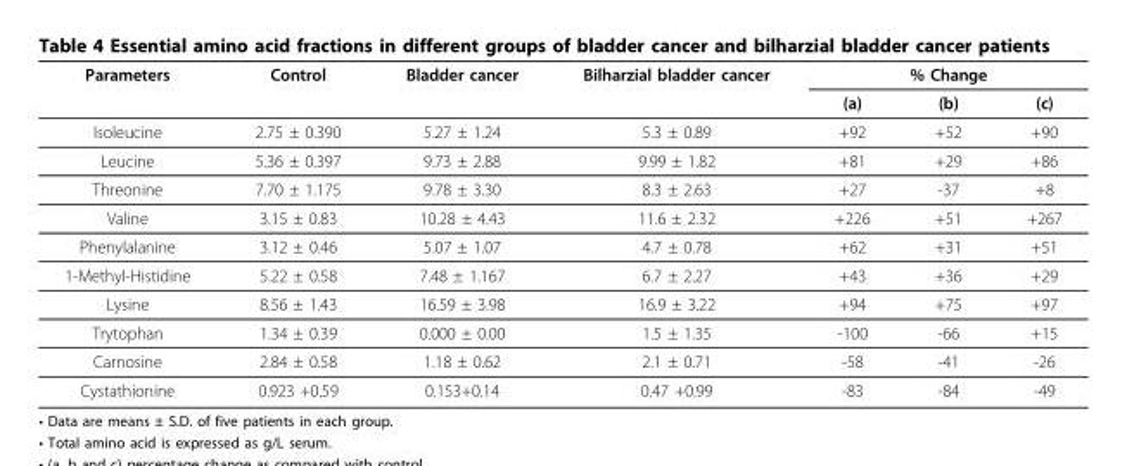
<table><thead><tr><td rowspan="2">Parameters</td><td rowspan="2">Control</td><td rowspan="2">Bladder cancer</td><td rowspan="2">Bilharzial bladder cancer</td><td colspan="3">% Change</td></tr><tr><td>(a)</td><td>(b)</td><td>(c)</td></tr></thead><tbody><tr><td>Isoleucine</td><td>2.75 ± 0.390</td><td>5.27 ± 1.24</td><td>5.3 ± 0.89</td><td>+92</td><td>+52</td><td>+90</td></tr><tr><td>Leucine</td><td>5.36 ± 0.397</td><td>9.73 ± 2.88</td><td>9.99 ± 1.82</td><td>+81</td><td>+29</td><td>+86</td></tr><tr><td>Threonine</td><td>7.70 ± 1.175</td><td>9.78 ± 3.30</td><td>8.3 ± 2.63</td><td>+27</td><td>-37</td><td>+8</td></tr><tr><td>Valine</td><td>3.15 ± 0.83</td><td>10.28 ± 4.43</td><td>11.6 ± 2.32</td><td>+226</td><td>+51</td><td>+267</td></tr><tr><td>Phenylalanine</td><td>3.12 ± 0.46</td><td>5.07 ± 1.07</td><td>4.7 ± 0.78</td><td>+62</td><td>+31</td><td>+51</td></tr><tr><td>1-Methyl-Histidine</td><td>5.22 ± 0.58</td><td>7.48 ± 1.167</td><td>6.7 ± 2.27</td><td>+43</td><td>+36</td><td>+29</td></tr><tr><td>Lysine</td><td>8.56 ± 1.43</td><td>16.59 ± 3.98</td><td>16.9 ± 3.22</td><td>+94</td><td>+75</td><td>+97</td></tr><tr><td>Trytophan</td><td>1.34 ± 0.39</td><td>0.000 ± 0.00</td><td>1.5 ± 1.35</td><td>-100</td><td>-66</td><td>+15</td></tr><tr><td>Carnosine</td><td>2.84 ± 0.58</td><td>1.18 ± 0.62</td><td>2.1 ± 0.71</td><td>-58</td><td>-41</td><td>-26</td></tr><tr><td>Cystathionine</td><td>0.923 +0.59</td><td>0.153+0.14</td><td>0.47 +0.99</td><td>-83</td><td>-84</td><td>-49</td></tr></tbody></table>